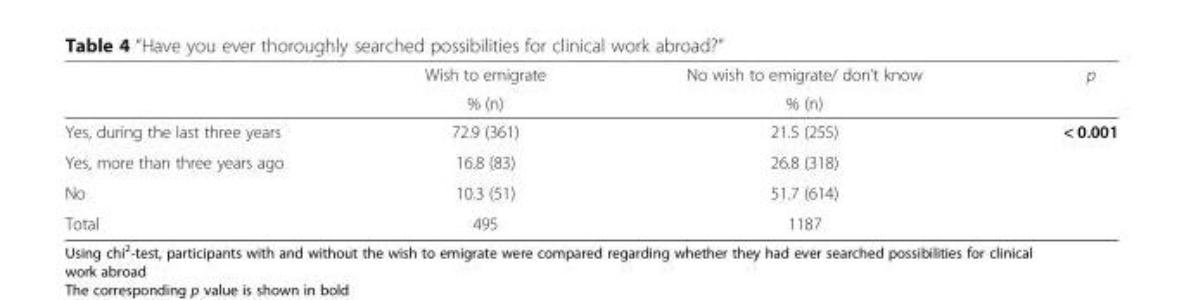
<table><thead><tr><td rowspan="2"></td><td rowspan="2">Wish to emigrate % (n)</td><td rowspan="2">No wish to emigrate/ don’t know % (n)</td><td rowspan="2">p</td></tr><tr></tr></thead><tbody><tr><td>Yes, during the last three years</td><td>72.9 (361)</td><td>21.5 (255)</td><td rowspan="3">&lt; 0.001</td></tr><tr><td>Yes, more than three years ago</td><td>16.8 (83)</td><td>26.8 (318)</td></tr><tr><td>No</td><td>10.3 (51)</td><td>51.7 (614)</td></tr><tr><td>Total</td><td>495</td><td>1187</td><td></td></tr></tbody></table>